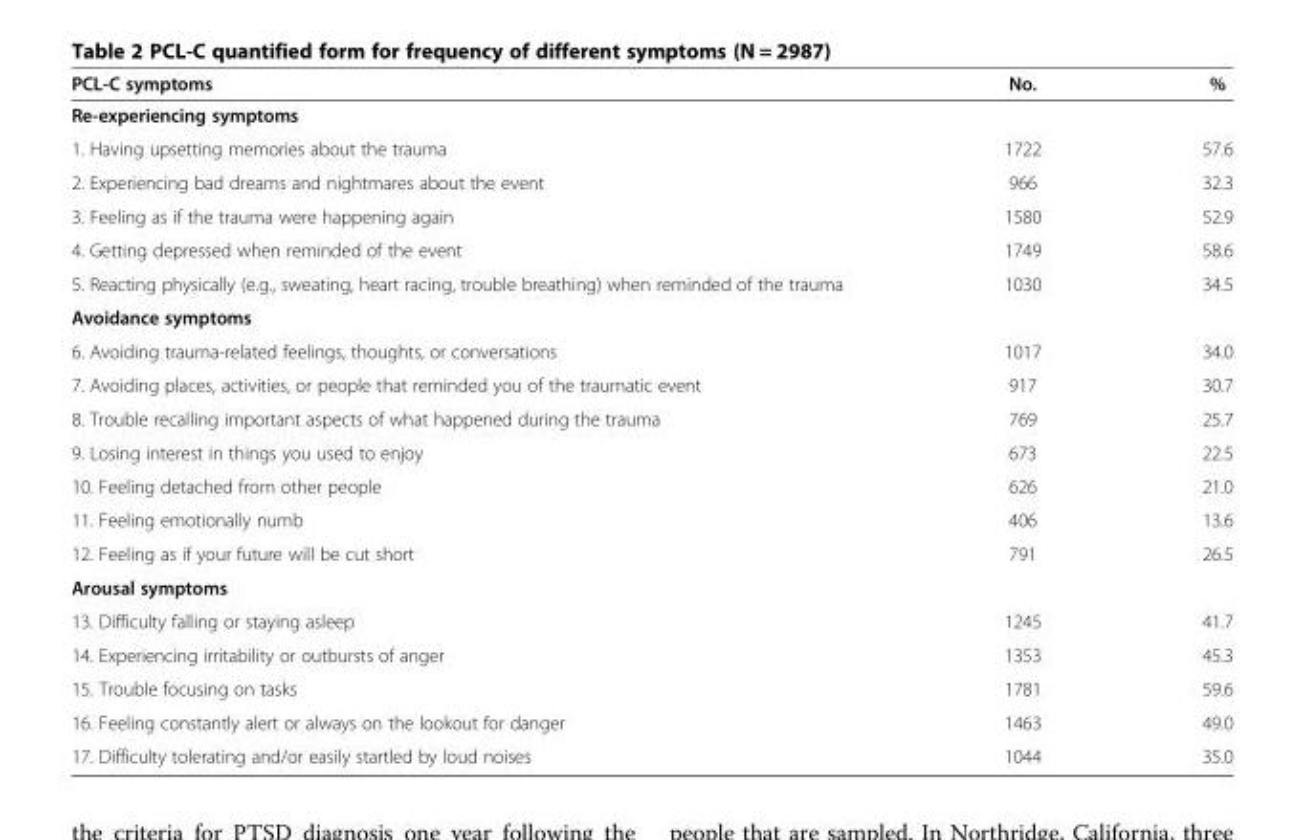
<table><thead><tr><td>PCL-C symptoms</td><td>No.</td><td>%</td></tr></thead><tbody><tr><td colspan="3">Re-experiencing symptoms</td></tr><tr><td>1. Having upsetting memories about the trauma</td><td>1722</td><td>57.6</td></tr><tr><td>2. Experiencing bad dreams and nightmares about the event</td><td>966</td><td>32.3</td></tr><tr><td>3. Feeling as if the trauma were happening again</td><td>1580</td><td>52.9</td></tr><tr><td>4. Getting depressed when reminded of the event</td><td>1749</td><td>58.6</td></tr><tr><td>5. Reacting physically (e.g., sweating, heart racing, trouble breathing) when reminded of the trauma</td><td>1030</td><td>34.5</td></tr><tr><td colspan="3">Avoidance symptoms</td></tr><tr><td>6. Avoiding trauma-related feelings, thoughts, or conversations</td><td>1017</td><td>34.0</td></tr><tr><td>7. Avoiding places, activities, or people that reminded you of the traumatic event</td><td>917</td><td>30.7</td></tr><tr><td>8. Trouble recalling important aspects of what happened during the trauma</td><td>769</td><td>25.7</td></tr><tr><td>9. Losing interest in things you used to enjoy</td><td>673</td><td>22.5</td></tr><tr><td>10. Feeling detached from other people</td><td>626</td><td>21.0</td></tr><tr><td>11. Feeling emotionally numb</td><td>406</td><td>13.6</td></tr><tr><td>12. Feeling as if your future will be cut short</td><td>791</td><td>26.5</td></tr><tr><td colspan="3">Arousal symptoms</td></tr><tr><td>13. Difficulty falling or staying asleep</td><td>1245</td><td>41.7</td></tr><tr><td>14. Experiencing irritability or outbursts of anger</td><td>1353</td><td>45.3</td></tr><tr><td>15. Trouble focusing on tasks</td><td>1781</td><td>59.6</td></tr><tr><td>16. Feeling constantly alert or always on the lookout for danger</td><td>1463</td><td>49.0</td></tr><tr><td>17. Difficulty tolerating and/or easily startled by loud noises</td><td>1044</td><td>35.0</td></tr></tbody></table>